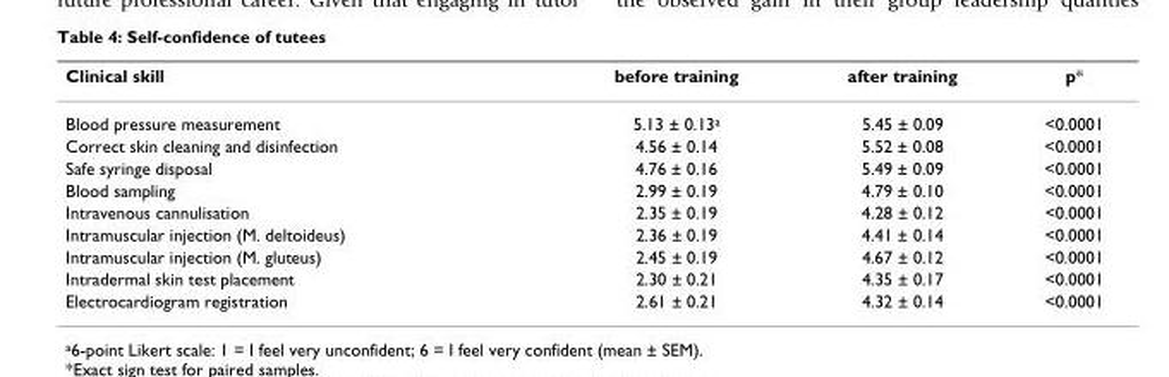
<table><thead><tr><td>Clinical skill</td><td>before training</td><td>after training</td><td>p*</td></tr></thead><tbody><tr><td>Blood pressure measurement</td><td>5.13 ± 0.13<sup>a</sup></td><td>5.45 ± 0.09</td><td>&lt;0.0001</td></tr><tr><td>Correct skin cleaning and disinfection</td><td>4.56 ± 0.14</td><td>5.52 ± 0.08</td><td>&lt;0.0001</td></tr><tr><td>Safe syringe disposal</td><td>4.76 ± 0.16</td><td>5.49 ± 0.09</td><td>&lt;0.0001</td></tr><tr><td>Blood sampling</td><td>2.99 ± 0.19</td><td>4.79 ± 0.10</td><td>&lt;0.0001</td></tr><tr><td>Intravenous cannulisation</td><td>2.35 ± 0.19</td><td>4.28 ± 0.12</td><td>&lt;0.0001</td></tr><tr><td>Intramuscular injection (M. deltoideus)</td><td>2.36 ± 0.19</td><td>4.41 ± 0.14</td><td>&lt;0.0001</td></tr><tr><td>Intramuscular injection (M. gluteus)</td><td>2.45 ± 0.19</td><td>4.67 ± 0.12</td><td>&lt;0.0001</td></tr><tr><td>Intradermal skin test placement</td><td>2.30 ± 0.21</td><td>4.35 ± 0.17</td><td>&lt;0.0001</td></tr><tr><td>Electrocardiogram registration</td><td>2.61 ± 0.21</td><td>4.32 ± 0.14</td><td>&lt;0.0001</td></tr></tbody></table>